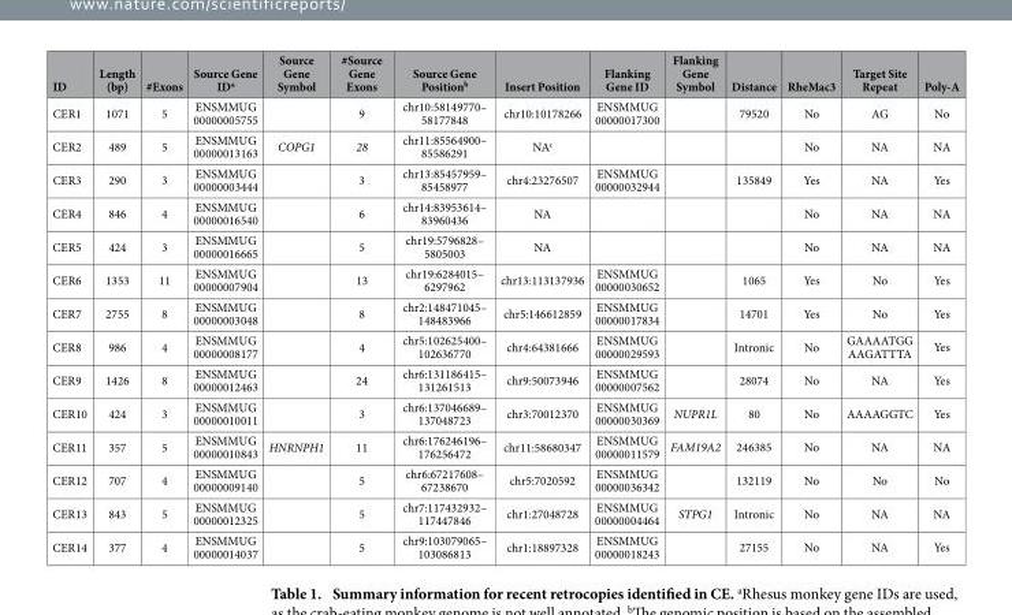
<table><thead><tr><td>ID</td><td>Length (bp)</td><td>#Exons</td><td>Source Gene ID<sup>a</sup></td><td>Source Gene Symbol</td><td>#Source Gene Exons</td><td>Source Gene Position<sup>b</sup></td><td>Insert Position</td><td>Flanking Gene ID</td><td>Flanking Gene Symbol</td><td>Distance</td><td>RheMac3</td><td>Target Site Repeat</td><td>Poly-A</td></tr></thead><tbody><tr><td>CER1</td><td>1071</td><td>5</td><td>ENSMMUG 00000005755</td><td></td><td>9</td><td>chr10:58149770– 58177848</td><td>chr10:10178266</td><td>ENSMMUG 00000017300</td><td></td><td>79520</td><td>No</td><td>AG</td><td>No</td></tr><tr><td>CER2</td><td>489</td><td>5</td><td>ENSMMUG 00000013163</td><td>COPG1</td><td>28</td><td>chr11:85564900– 85586291</td><td>NA<sup>c</sup></td><td></td><td></td><td></td><td>No</td><td>NA</td><td>NA</td></tr><tr><td>CER3</td><td>290</td><td>3</td><td>ENSMMUG 00000003444</td><td></td><td>3</td><td>chr13:85457959– 85458977</td><td>chr4:23276507</td><td>ENSMMUG 00000032944</td><td></td><td>135849</td><td>Yes</td><td>NA</td><td>Yes</td></tr><tr><td>CER4</td><td>846</td><td>4</td><td>ENSMMUG 00000016540</td><td></td><td>6</td><td>chr14:83953614– 83960436</td><td>NA</td><td></td><td></td><td></td><td>No</td><td>NA</td><td>NA</td></tr><tr><td>CER5</td><td>424</td><td>3</td><td>ENSMMUG 00000016665</td><td></td><td>5</td><td>chr19:5796828– 5805003</td><td>NA</td><td></td><td></td><td></td><td>No</td><td>NA</td><td>NA</td></tr><tr><td>CER6</td><td>1353</td><td>11</td><td>ENSMMUG 00000007904</td><td></td><td>13</td><td>chr19:6284015– 6297962</td><td>chr13:113137936</td><td>ENSMMUG 00000030652</td><td></td><td>1065</td><td>Yes</td><td>No</td><td>Yes</td></tr><tr><td>CER7</td><td>2755</td><td>8</td><td>ENSMMUG 00000003048</td><td></td><td>8</td><td>chr2:148471045– 148483966</td><td>chr5:146612859</td><td>ENSMMUG 00000017834</td><td></td><td>14701</td><td>Yes</td><td>No</td><td>Yes</td></tr><tr><td>CER8</td><td>986</td><td>4</td><td>ENSMMUG 00000008177</td><td></td><td>4</td><td>chr5:102625400– 102636770</td><td>chr4:64381666</td><td>ENSMMUG 00000029593</td><td></td><td>Intronic</td><td>No</td><td>GAAAATGG AAGATTTA</td><td>Yes</td></tr><tr><td>CER9</td><td>1426</td><td>8</td><td>ENSMMUG 00000012463</td><td></td><td>24</td><td>chr6:131186415– 131261513</td><td>chr9:50073946</td><td>ENSMMUG 00000007562</td><td></td><td>28074</td><td>No</td><td>NA</td><td>Yes</td></tr><tr><td>CER10</td><td>424</td><td>3</td><td>ENSMMUG 00000010011</td><td></td><td>3</td><td>chr6:137046689– 137048723</td><td>chr3:70012370</td><td>ENSMMUG 00000030369</td><td>NUPR1L</td><td>80</td><td>No</td><td>AAAAGGTC</td><td>Yes</td></tr><tr><td>CER11</td><td>357</td><td>5</td><td>ENSMMUG 00000010843</td><td>HNRNPH1</td><td>11</td><td>chr6:176246196– 176256472</td><td>chr11:58680347</td><td>ENSMMUG 00000011579</td><td>FAM19A2</td><td>246385</td><td>No</td><td>NA</td><td>NA</td></tr><tr><td>CER12</td><td>707</td><td>4</td><td>ENSMMUG 00000009140</td><td></td><td>5</td><td>chr6:67217608– 67238670</td><td>chr5:7020592</td><td>ENSMMUG 00000036342</td><td></td><td>132119</td><td>No</td><td>No</td><td>No</td></tr><tr><td>CER13</td><td>843</td><td>5</td><td>ENSMMUG 00000012325</td><td></td><td>5</td><td>chr7:117432932– 117447846</td><td>chr1:27048728</td><td>ENSMMUG 00000004464</td><td>STPG1</td><td>Intronic</td><td>No</td><td>NA</td><td>NA</td></tr><tr><td>CER14</td><td>377</td><td>4</td><td>ENSMMUG 00000014037</td><td></td><td>5</td><td>chr9:103079065– 103086813</td><td>chr1:18897328</td><td>ENSMMUG 00000018243</td><td></td><td>27155</td><td>No</td><td>NA</td><td>Yes</td></tr></tbody></table>